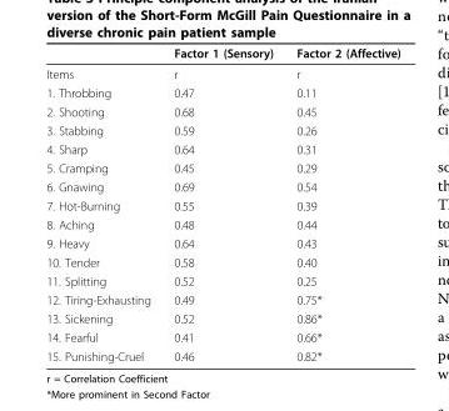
<table><thead><tr><td></td><td>Factor 1 (Sensory)</td><td>Factor 2 (Affective)</td></tr></thead><tbody><tr><td>Items</td><td>r</td><td>r</td></tr><tr><td>1. Throbbing</td><td>0.47</td><td>0.11</td></tr><tr><td>2. Shooting</td><td>0.68</td><td>0.45</td></tr><tr><td>3. Stabbing</td><td>0.59</td><td>0.26</td></tr><tr><td>4. Sharp</td><td>0.64</td><td>0.31</td></tr><tr><td>5. Cramping</td><td>0.45</td><td>0.29</td></tr><tr><td>6. Gnawing</td><td>0.69</td><td>0.54</td></tr><tr><td>7. Hot-Burning</td><td>0.55</td><td>0.39</td></tr><tr><td>8. Aching</td><td>0.48</td><td>0.44</td></tr><tr><td>9. Heavy</td><td>0.64</td><td>0.43</td></tr><tr><td>10. Tender</td><td>0.58</td><td>0.40</td></tr><tr><td>11. Splitting</td><td>0.52</td><td>0.25</td></tr><tr><td>12. Tiring-Exhausting</td><td>0.49</td><td>0.75*</td></tr><tr><td>13. Sickening</td><td>0.52</td><td>0.86*</td></tr><tr><td>14. Fearful</td><td>0.41</td><td>0.66*</td></tr><tr><td>15. Punishing-Cruel</td><td>0.46</td><td>0.82*</td></tr></tbody></table>